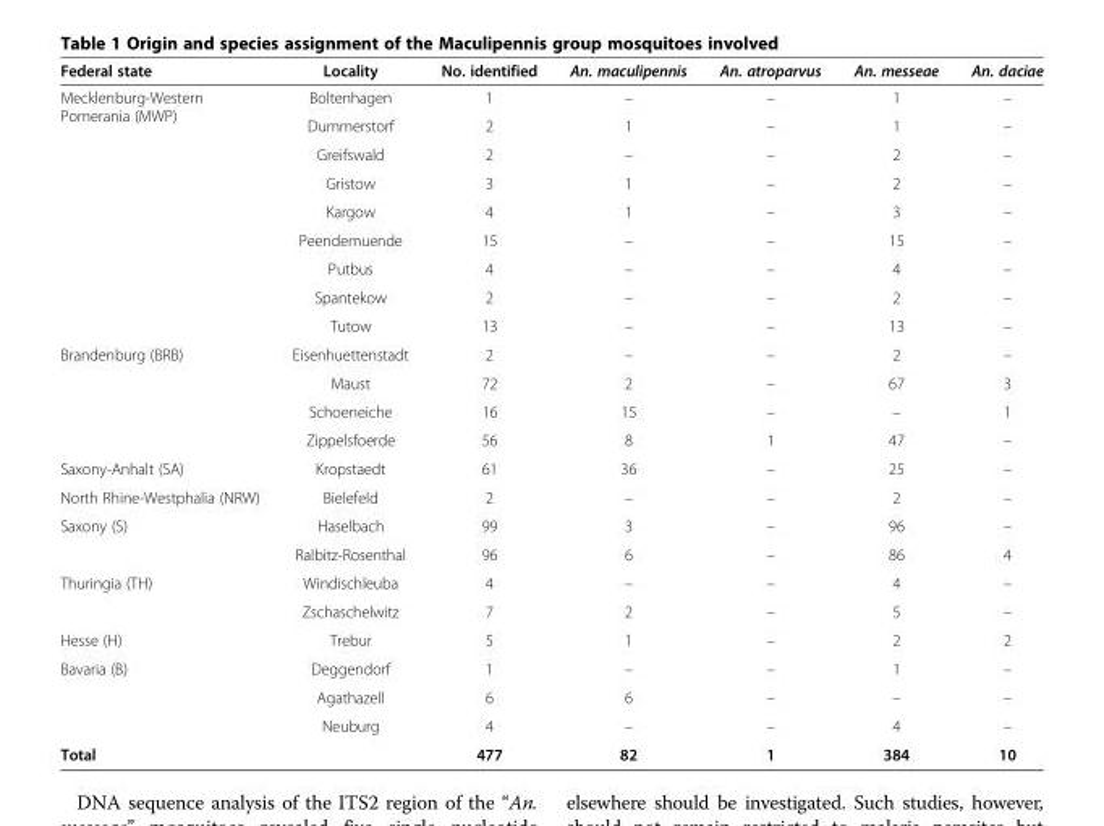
<table><thead><tr><td>Federal state</td><td>Locality</td><td>No. identified</td><td>An. maculipennis</td><td>An. atroparvus</td><td>An. messeae</td><td>An. daciae</td></tr></thead><tbody><tr><td rowspan="9">Mecklenburg-Western Pomerania (MWP)</td><td>Boltenhagen</td><td>1</td><td>–</td><td>–</td><td>1</td><td>–</td></tr><tr><td>Dummerstorf</td><td>2</td><td>1</td><td>–</td><td>1</td><td>–</td></tr><tr><td>Greifswald</td><td>2</td><td>–</td><td>–</td><td>2</td><td>–</td></tr><tr><td>Gristow</td><td>3</td><td>1</td><td>–</td><td>2</td><td>–</td></tr><tr><td>Kargow</td><td>4</td><td>1</td><td>–</td><td>3</td><td>–</td></tr><tr><td>Peendemuende</td><td>15</td><td>–</td><td>–</td><td>15</td><td>–</td></tr><tr><td>Putbus</td><td>4</td><td>–</td><td>–</td><td>4</td><td>–</td></tr><tr><td>Spantekow</td><td>2</td><td>–</td><td>–</td><td>2</td><td>–</td></tr><tr><td>Tutow</td><td>13</td><td>–</td><td>–</td><td>13</td><td>–</td></tr><tr><td rowspan="4">Brandenburg (BRB)</td><td>Eisenhuettenstadt</td><td>2</td><td>–</td><td>–</td><td>2</td><td>–</td></tr><tr><td>Maust</td><td>72</td><td>2</td><td>–</td><td>67</td><td>3</td></tr><tr><td>Schoeneiche</td><td>16</td><td>15</td><td>–</td><td>–</td><td>1</td></tr><tr><td>Zippelsfoerde</td><td>56</td><td>8</td><td>1</td><td>47</td><td>–</td></tr><tr><td>Saxony-Anhalt (SA)</td><td>Kropstaedt</td><td>61</td><td>36</td><td>–</td><td>25</td><td>–</td></tr><tr><td>North Rhine-Westphalia (NRW)</td><td>Bielefeld</td><td>2</td><td>–</td><td>–</td><td>2</td><td>–</td></tr><tr><td rowspan="2">Saxony (S)</td><td>Haselbach</td><td>99</td><td>3</td><td>–</td><td>96</td><td>–</td></tr><tr><td>Ralbitz-Rosenthal</td><td>96</td><td>6</td><td>–</td><td>86</td><td>4</td></tr><tr><td rowspan="2">Thuringia (TH)</td><td>Windischleuba</td><td>4</td><td>–</td><td>–</td><td>4</td><td>–</td></tr><tr><td>Zschaschelwitz</td><td>7</td><td>2</td><td>–</td><td>5</td><td>–</td></tr><tr><td>Hesse (H)</td><td>Trebur</td><td>5</td><td>1</td><td>–</td><td>2</td><td>2</td></tr><tr><td rowspan="3">Bavaria (B)</td><td>Deggendorf</td><td>1</td><td>–</td><td>–</td><td>1</td><td>–</td></tr><tr><td>Agathazell</td><td>6</td><td>6</td><td>–</td><td>–</td><td>–</td></tr><tr><td>Neuburg</td><td>4</td><td>–</td><td>–</td><td>4</td><td>–</td></tr><tr><td>Total</td><td></td><td>477</td><td>82</td><td>1</td><td>384</td><td>10</td></tr></tbody></table>